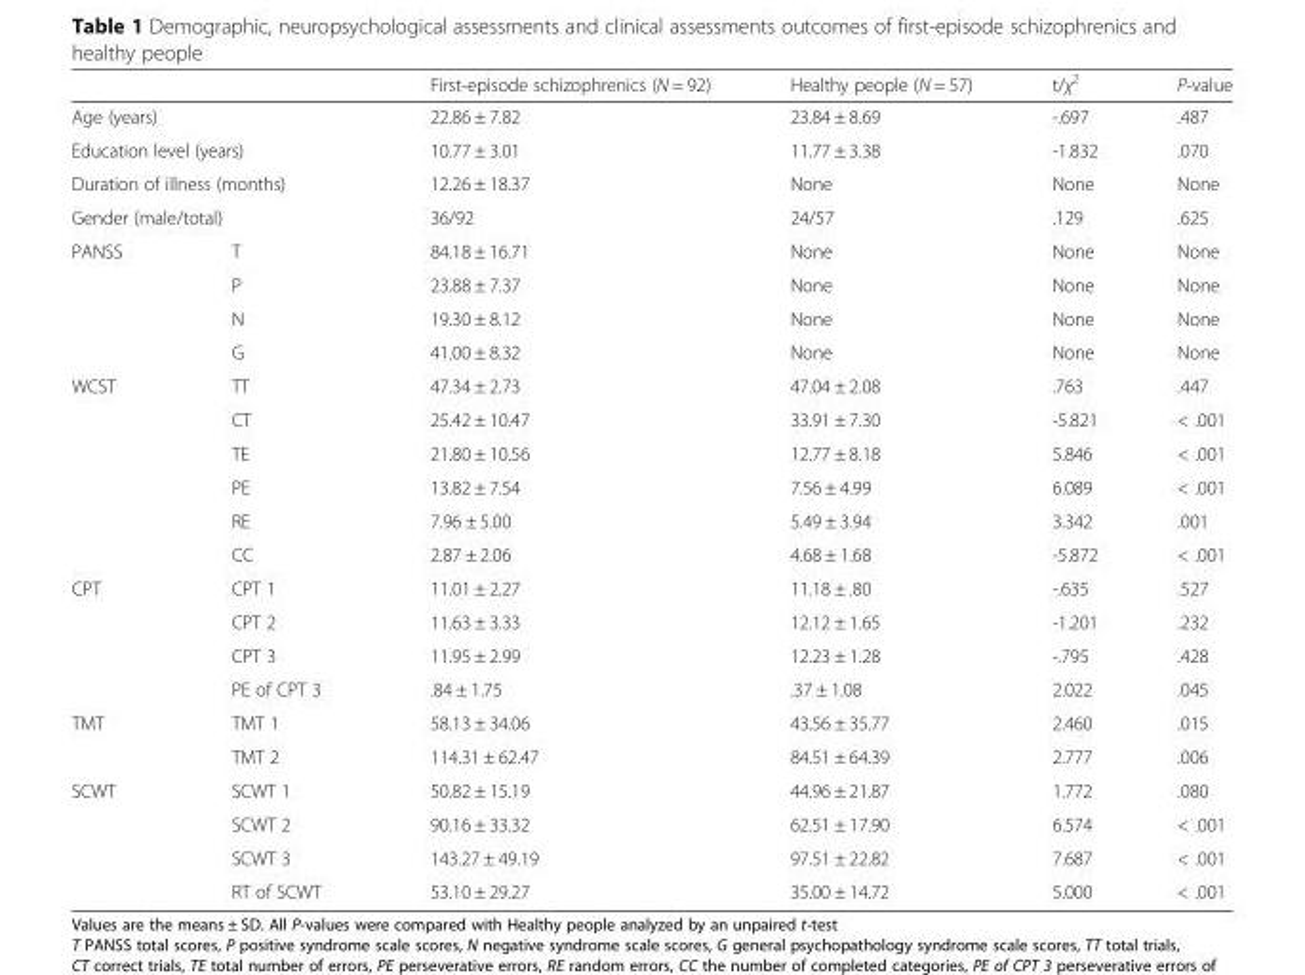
<table><thead><tr><td></td><td></td><td>First-episode schizophrenics (N = 92)</td><td>Healthy people (N = 57)</td><td>t/χ<sup>2</sup></td><td>P-value</td></tr></thead><tbody><tr><td colspan="2">Age (years)</td><td>22.86 ± 7.82</td><td>23.84 ± 8.69</td><td>-.697</td><td>.487</td></tr><tr><td colspan="2">Education level (years)</td><td>10.77 ± 3.01</td><td>11.77 ± 3.38</td><td>-1.832</td><td>.070</td></tr><tr><td colspan="2">Duration of illness (months)</td><td>12.26 ± 18.37</td><td>None</td><td>None</td><td>None</td></tr><tr><td colspan="2">Gender (male/total)</td><td>36/92</td><td>24/57</td><td>.129</td><td>.625</td></tr><tr><td rowspan="4">PANSS</td><td>T</td><td>84.18 ± 16.71</td><td>None</td><td>None</td><td>None</td></tr><tr><td>P</td><td>23.88 ± 7.37</td><td>None</td><td>None</td><td>None</td></tr><tr><td>N</td><td>19.30 ± 8.12</td><td>None</td><td>None</td><td>None</td></tr><tr><td>G</td><td>41.00 ± 8.32</td><td>None</td><td>None</td><td>None</td></tr><tr><td rowspan="6">WCST</td><td>TT</td><td>47.34 ± 2.73</td><td>47.04 ± 2.08</td><td>.763</td><td>.447</td></tr><tr><td>CT</td><td>25.42 ± 10.47</td><td>33.91 ± 7.30</td><td>-5.821</td><td>&lt; .001</td></tr><tr><td>TE</td><td>21.80 ± 10.56</td><td>12.77 ± 8.18</td><td>5.846</td><td>&lt; .001</td></tr><tr><td>PE</td><td>13.82 ± 7.54</td><td>7.56 ± 4.99</td><td>6.089</td><td>&lt; .001</td></tr><tr><td>RE</td><td>7.96 ± 5.00</td><td>5.49 ± 3.94</td><td>3.342</td><td>.001</td></tr><tr><td>CC</td><td>2.87 ± 2.06</td><td>4.68 ± 1.68</td><td>-5.872</td><td>&lt; .001</td></tr><tr><td rowspan="4">CPT</td><td>CPT 1</td><td>11.01 ± 2.27</td><td>11.18 ± .80</td><td>-.635</td><td>.527</td></tr><tr><td>CPT 2</td><td>11.63 ± 3.33</td><td>12.12 ± 1.65</td><td>-1.201</td><td>.232</td></tr><tr><td>CPT 3</td><td>11.95 ± 2.99</td><td>12.23 ± 1.28</td><td>-.795</td><td>.428</td></tr><tr><td>PE of CPT 3</td><td>.84 ± 1.75</td><td>.37 ± 1.08</td><td>2.022</td><td>.045</td></tr><tr><td rowspan="2">TMT</td><td>TMT 1</td><td>58.13 ± 34.06</td><td>43.56 ± 35.77</td><td>2.460</td><td>.015</td></tr><tr><td>TMT 2</td><td>114.31 ± 62.47</td><td>84.51 ± 64.39</td><td>2.777</td><td>.006</td></tr><tr><td rowspan="4">SCWT</td><td>SCWT 1</td><td>50.82 ± 15.19</td><td>44.96 ± 21.87</td><td>1.772</td><td>.080</td></tr><tr><td>SCWT 2</td><td>90.16 ± 33.32</td><td>62.51 ± 17.90</td><td>6.574</td><td>&lt; .001</td></tr><tr><td>SCWT 3</td><td>143.27 ± 49.19</td><td>97.51 ± 22.82</td><td>7.687</td><td>&lt; .001</td></tr><tr><td>RT of SCWT</td><td>53.10 ± 29.27</td><td>35.00 ± 14.72</td><td>5.000</td><td>&lt; .001</td></tr></tbody></table>